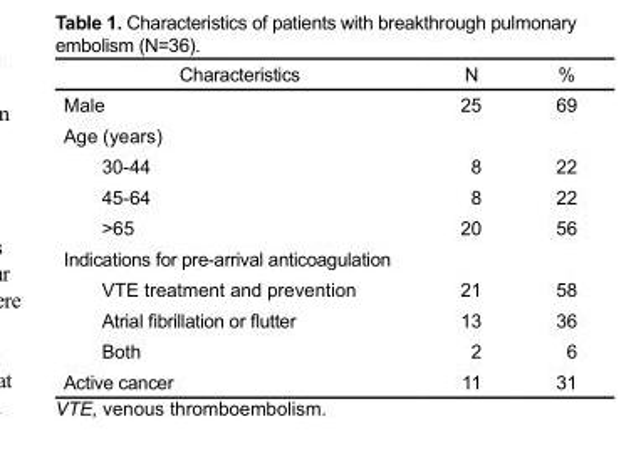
<table><thead><tr><td>Characteristics</td><td>N</td><td>%</td></tr></thead><tbody><tr><td>Male</td><td>25</td><td>69</td></tr><tr><td colspan="3">Age (years)</td></tr><tr><td>30-44</td><td>8</td><td>22</td></tr><tr><td>45-64</td><td>8</td><td>22</td></tr><tr><td>&gt;65</td><td>20</td><td>56</td></tr><tr><td colspan="3">Indications for pre-arrival anticoagulation</td></tr><tr><td>VTE treatment and prevention</td><td>21</td><td>58</td></tr><tr><td>Atrial fibrillation or flutter</td><td>13</td><td>36</td></tr><tr><td>Both</td><td>2</td><td>6</td></tr><tr><td>Active cancer</td><td>11</td><td>31</td></tr></tbody></table>